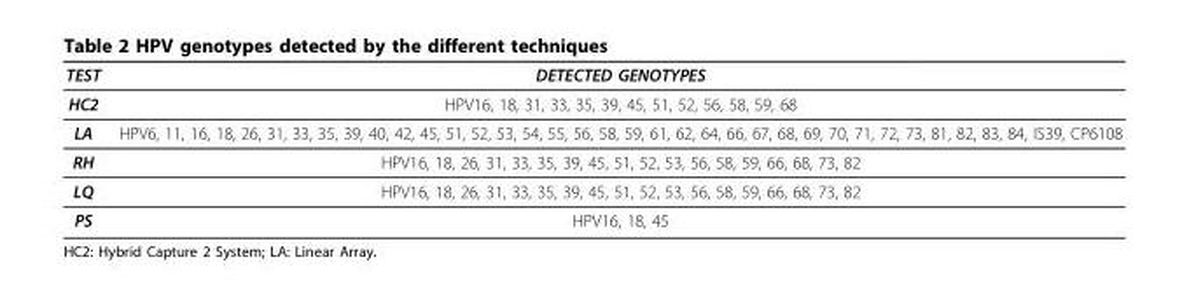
<table><thead><tr><td>TEST</td><td>DETECTED GENOTYPES</td></tr></thead><tbody><tr><td>HC2</td><td>HPV16, 18, 31, 33, 35, 39, 45, 51, 52, 56, 58, 59, 68</td></tr><tr><td>LA</td><td>HPV6, 11, 16, 18, 26, 31, 33, 35, 39, 40, 42, 45, 51, 52, 53, 54, 55, 56, 58, 59, 61, 62, 64, 66, 67, 68, 69, 70, 71, 72, 73, 81, 82, 83, 84, IS39, CP6108</td></tr><tr><td>RH</td><td>HPV16, 18, 26, 31, 33, 35, 39, 45, 51, 52, 53, 56, 58, 59, 66, 68, 73, 82</td></tr><tr><td>LQ</td><td>HPV16, 18, 26, 31, 33, 35, 39, 45, 51, 52, 53, 56, 58, 59, 66, 68, 73, 82</td></tr><tr><td>PS</td><td>HPV16, 18, 45</td></tr></tbody></table>